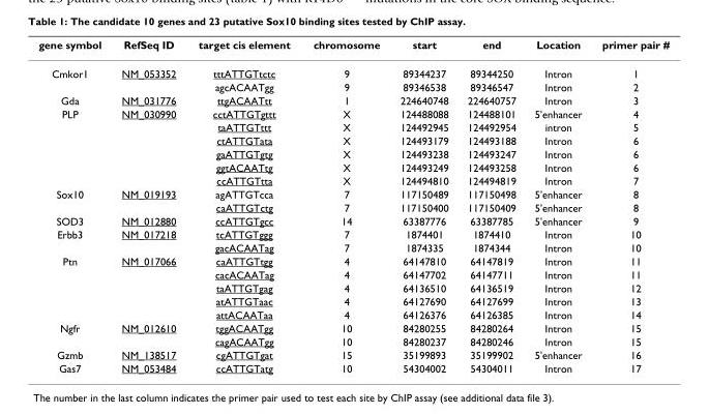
<table><thead><tr><td>gene symbol</td><td>RefSeq ID</td><td>target cis element</td><td>chromosome</td><td>start</td><td>end</td><td>Location</td><td>primer pair #</td></tr></thead><tbody><tr><td rowspan="2">Cmkor1</td><td>NM_053352</td><td>tttATTGTtctc</td><td>9</td><td>89344237</td><td>89344250</td><td>Intron</td><td>1</td></tr><tr><td></td><td>agcACAATgg</td><td>9</td><td>89346538</td><td>89346547</td><td>Intron</td><td>2</td></tr><tr><td>Gda</td><td>NM_031776</td><td>ttgACAATtt</td><td>1</td><td>224640748</td><td>224640757</td><td>Intron</td><td>3</td></tr><tr><td rowspan="6">PLP</td><td>NM_030990</td><td>cctATTGTgttt</td><td>X</td><td>124488088</td><td>124488101</td><td>5&#x27;enhancer</td><td>4</td></tr><tr><td></td><td>taATTGTttt</td><td>X</td><td>124492945</td><td>124492954</td><td>intron</td><td>5</td></tr><tr><td></td><td>ctATTGTata</td><td>X</td><td>124493179</td><td>124493188</td><td>Intron</td><td>6</td></tr><tr><td></td><td>gaATTGTgtg</td><td>X</td><td>124493238</td><td>124493247</td><td>Intron</td><td>6</td></tr><tr><td></td><td>ggtACAATtg</td><td>X</td><td>124493249</td><td>124493258</td><td>Intron</td><td>6</td></tr><tr><td></td><td>ccATTGTtta</td><td>X</td><td>124494810</td><td>124494819</td><td>Intron</td><td>7</td></tr><tr><td rowspan="2">Sox10</td><td>NM_019193</td><td>agATTGTcca</td><td>7</td><td>117150489</td><td>117150498</td><td>5&#x27;enhancer</td><td>8</td></tr><tr><td></td><td>caATTGTctg</td><td>7</td><td>117150400</td><td>117150409</td><td>5&#x27;enhancer</td><td>8</td></tr><tr><td>SOD3</td><td>NM_012880</td><td>ccATTGTgcc</td><td>14</td><td>63387776</td><td>63387785</td><td>5&#x27;enhancer</td><td>9</td></tr><tr><td rowspan="2">Erbb3</td><td>NM_017218</td><td>tcATTGTggg</td><td>7</td><td>1874401</td><td>1874410</td><td>Intron</td><td>10</td></tr><tr><td></td><td>gacACAATag</td><td>7</td><td>1874335</td><td>1874344</td><td>Intron</td><td>10</td></tr><tr><td rowspan="5">Ptn</td><td>NM_017066</td><td>caATTGTtgg</td><td>4</td><td>64147810</td><td>64147819</td><td>Intron</td><td>11</td></tr><tr><td></td><td>cacACAATag</td><td>4</td><td>64147702</td><td>64147711</td><td>Intron</td><td>11</td></tr><tr><td></td><td>taATTGTgag</td><td>4</td><td>64136510</td><td>64136519</td><td>Intron</td><td>12</td></tr><tr><td></td><td>atATTGTaac</td><td>4</td><td>64127690</td><td>64127699</td><td>Intron</td><td>13</td></tr><tr><td></td><td>attACAATaa</td><td>4</td><td>64126376</td><td>64126385</td><td>Intron</td><td>14</td></tr><tr><td rowspan="2">Ngfr</td><td>NM_012610</td><td>tggACAATgg</td><td>10</td><td>84280255</td><td>84280264</td><td>Intron</td><td>15</td></tr><tr><td></td><td>cagACAATgg</td><td>10</td><td>84280237</td><td>84280246</td><td>Intron</td><td>15</td></tr><tr><td>Gzmb</td><td>NM_138517</td><td>cgATTGTgat</td><td>15</td><td>35199893</td><td>35199902</td><td>5&#x27;enhancer</td><td>16</td></tr><tr><td>Gas7</td><td>NM_053484</td><td>ccATTGTatg</td><td>10</td><td>54304002</td><td>54304011</td><td>Intron</td><td>17</td></tr></tbody></table>